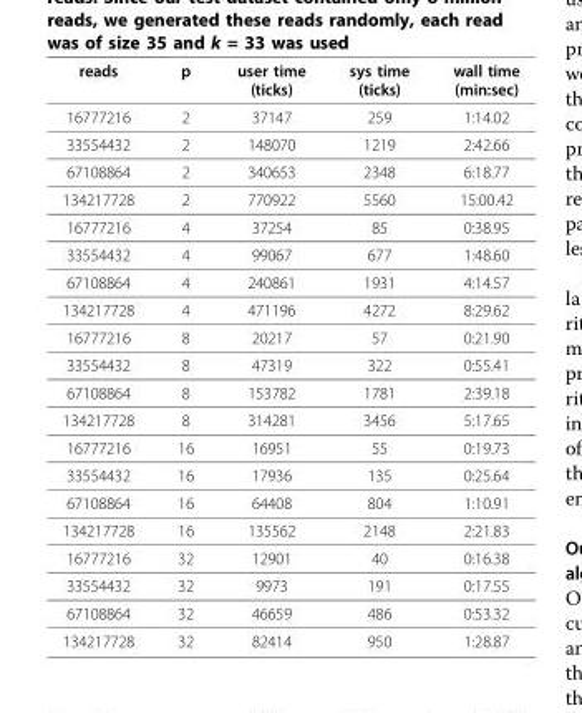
<table><thead><tr><td>reads</td><td>p</td><td>user time (ticks)</td><td>sys time (ticks)</td><td>wall time (min:sec)</td></tr></thead><tbody><tr><td>16777216</td><td>2</td><td>37147</td><td>259</td><td>1:14.02</td></tr><tr><td>33554432</td><td>2</td><td>148070</td><td>1219</td><td>2:42.66</td></tr><tr><td>67108864</td><td>2</td><td>340653</td><td>2348</td><td>6:18.77</td></tr><tr><td>134217728</td><td>2</td><td>770922</td><td>5560</td><td>15:00.42</td></tr><tr><td>16777216</td><td>4</td><td>37254</td><td>85</td><td>0:38.95</td></tr><tr><td>33554432</td><td>4</td><td>99067</td><td>677</td><td>1:48.60</td></tr><tr><td>67108864</td><td>4</td><td>240861</td><td>1931</td><td>4:14.57</td></tr><tr><td>134217728</td><td>4</td><td>471196</td><td>4272</td><td>8:29.62</td></tr><tr><td>16777216</td><td>8</td><td>20217</td><td>57</td><td>0:21.90</td></tr><tr><td>33554432</td><td>8</td><td>47319</td><td>322</td><td>0:55.41</td></tr><tr><td>67108864</td><td>8</td><td>153782</td><td>1781</td><td>2:39.18</td></tr><tr><td>134217728</td><td>8</td><td>314281</td><td>3456</td><td>5:17.65</td></tr><tr><td>16777216</td><td>16</td><td>16951</td><td>55</td><td>0:19.73</td></tr><tr><td>33554432</td><td>16</td><td>17936</td><td>135</td><td>0:25.64</td></tr><tr><td>67108864</td><td>16</td><td>64408</td><td>804</td><td>1:10.91</td></tr><tr><td>134217728</td><td>16</td><td>135562</td><td>2148</td><td>2:21.83</td></tr><tr><td>16777216</td><td>32</td><td>12901</td><td>40</td><td>0:16.38</td></tr><tr><td>33554432</td><td>32</td><td>9973</td><td>191</td><td>0:17.55</td></tr><tr><td>67108864</td><td>32</td><td>46659</td><td>486</td><td>0:53.32</td></tr><tr><td>134217728</td><td>32</td><td>82414</td><td>950</td><td>1:28.87</td></tr></tbody></table>